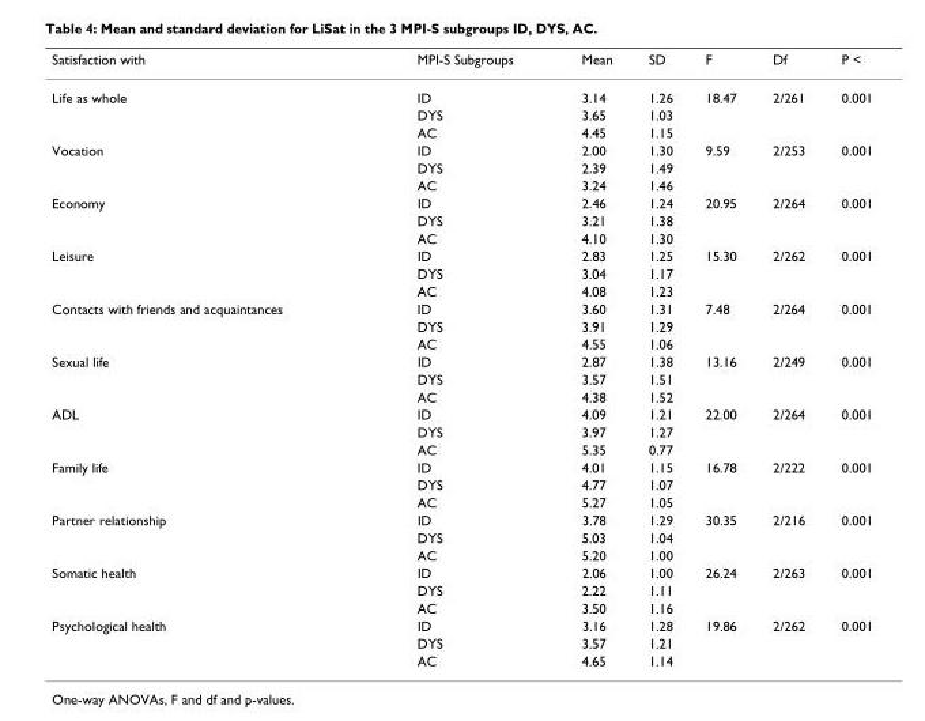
<table><thead><tr><td>Satisfaction with</td><td>MPI-S Subgroups</td><td>Mean</td><td>SD</td><td>F</td><td>Df</td><td>P &lt;</td></tr></thead><tbody><tr><td rowspan="3">Life as whole</td><td>ID</td><td>3.14</td><td>1.26</td><td>18.47</td><td>2/261</td><td>0.001</td></tr><tr><td>DYS</td><td>3.65</td><td>1.03</td><td></td><td></td><td></td></tr><tr><td>AC</td><td>4.45</td><td>1.15</td><td></td><td></td><td></td></tr><tr><td rowspan="3">Vocation</td><td>ID</td><td>2.00</td><td>1.30</td><td>9.59</td><td>2/253</td><td>0.001</td></tr><tr><td>DYS</td><td>2.39</td><td>1.49</td><td></td><td></td><td></td></tr><tr><td>AC</td><td>3.24</td><td>1.46</td><td></td><td></td><td></td></tr><tr><td rowspan="3">Economy</td><td>ID</td><td>2.46</td><td>1.24</td><td>20.95</td><td>2/264</td><td>0.001</td></tr><tr><td>DYS</td><td>3.21</td><td>1.38</td><td></td><td></td><td></td></tr><tr><td>AC</td><td>4.10</td><td>1.30</td><td></td><td></td><td></td></tr><tr><td rowspan="3">Leisure</td><td>ID</td><td>2.83</td><td>1.25</td><td>15.30</td><td>2/262</td><td>0.001</td></tr><tr><td>DYS</td><td>3.04</td><td>1.17</td><td></td><td></td><td></td></tr><tr><td>AC</td><td>4.08</td><td>1.23</td><td></td><td></td><td></td></tr><tr><td rowspan="3">Contacts with friends and acquaintances</td><td>ID</td><td>3.60</td><td>1.31</td><td>7.48</td><td>2/264</td><td>0.001</td></tr><tr><td>DYS</td><td>3.91</td><td>1.29</td><td></td><td></td><td></td></tr><tr><td>AC</td><td>4.55</td><td>1.06</td><td></td><td></td><td></td></tr><tr><td rowspan="3">Sexual life</td><td>ID</td><td>2.87</td><td>1.38</td><td>13.16</td><td>2/249</td><td>0.001</td></tr><tr><td>DYS</td><td>3.57</td><td>1.51</td><td></td><td></td><td></td></tr><tr><td>AC</td><td>4.38</td><td>1.52</td><td></td><td></td><td></td></tr><tr><td rowspan="3">ADL</td><td>ID</td><td>4.09</td><td>1.21</td><td>22.00</td><td>2/264</td><td>0.001</td></tr><tr><td>DYS</td><td>3.97</td><td>1.27</td><td></td><td></td><td></td></tr><tr><td>AC</td><td>5.35</td><td>0.77</td><td></td><td></td><td></td></tr><tr><td rowspan="3">Family life</td><td>ID</td><td>4.01</td><td>1.15</td><td>16.78</td><td>2/222</td><td>0.001</td></tr><tr><td>DYS</td><td>4.77</td><td>1.07</td><td></td><td></td><td></td></tr><tr><td>AC</td><td>5.27</td><td>1.05</td><td></td><td></td><td></td></tr><tr><td rowspan="3">Partner relationship</td><td>ID</td><td>3.78</td><td>1.29</td><td>30.35</td><td>2/216</td><td>0.001</td></tr><tr><td>DYS</td><td>5.03</td><td>1.04</td><td></td><td></td><td></td></tr><tr><td>AC</td><td>5.20</td><td>1.00</td><td></td><td></td><td></td></tr><tr><td rowspan="3">Somatic health</td><td>ID</td><td>2.06</td><td>1.00</td><td>26.24</td><td>2/263</td><td>0.001</td></tr><tr><td>DYS</td><td>2.22</td><td>1.11</td><td></td><td></td><td></td></tr><tr><td>AC</td><td>3.50</td><td>1.16</td><td></td><td></td><td></td></tr><tr><td rowspan="3">Psychological health</td><td>ID</td><td>3.16</td><td>1.28</td><td>19.86</td><td>2/262</td><td>0.001</td></tr><tr><td>DYS</td><td>3.57</td><td>1.21</td><td></td><td></td><td></td></tr><tr><td>AC</td><td>4.65</td><td>1.14</td><td></td><td></td><td></td></tr></tbody></table>